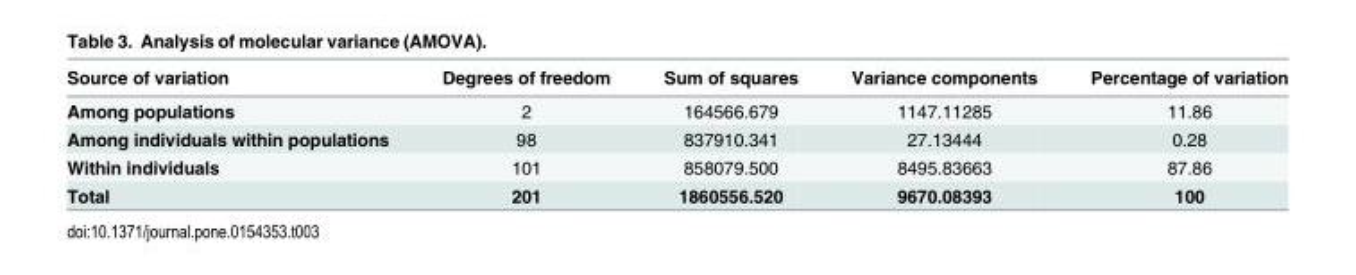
<table><thead><tr><td>Source of variation</td><td>Degrees of freedom</td><td>Sum of squares</td><td>Variance components</td><td>Percentage of variation</td></tr></thead><tbody><tr><td>Among populations</td><td>2</td><td>164566.679</td><td>1147.11285</td><td>11.86</td></tr><tr><td>Among individuals within populations</td><td>98</td><td>837910.341</td><td>27.13444</td><td>0.28</td></tr><tr><td>Within individuals</td><td>101</td><td>858079.500</td><td>8495.83663</td><td>87.86</td></tr><tr><td>Total</td><td>201</td><td>1860556.520</td><td>9670.08393</td><td>100</td></tr></tbody></table>